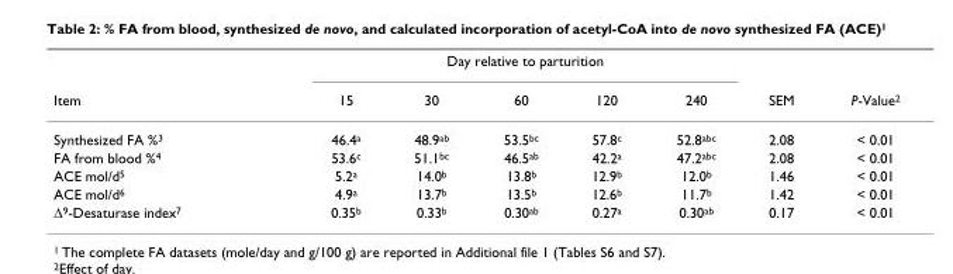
<table><thead><tr><td rowspan="2">Item</td><td colspan="5">Day relative to parturition</td><td rowspan="2">SEM</td><td rowspan="2">P-Value<sup>2</sup></td></tr><tr><td>15</td><td>30</td><td>60</td><td>120</td><td>240</td></tr></thead><tbody><tr><td>Synthesized FA %<sup>3</sup></td><td>46.4<sup>a</sup></td><td>48.9<sup>ab</sup></td><td>53.5<sup>bc</sup></td><td>57.8<sup>c</sup></td><td>52.8<sup>abc</sup></td><td>2.08</td><td>&lt; 0.01</td></tr><tr><td>FA from blood %<sup>4</sup></td><td>53.6<sup>c</sup></td><td>51.1<sup>bc</sup></td><td>46.5<sup>ab</sup></td><td>42.2<sup>a</sup></td><td>47.2<sup>abc</sup></td><td>2.08</td><td>&lt; 0.01</td></tr><tr><td>ACE mol/d<sup>5</sup></td><td>5.2<sup>a</sup></td><td>14.0<sup>b</sup></td><td>13.8<sup>b</sup></td><td>12.9<sup>b</sup></td><td>12.0<sup>b</sup></td><td>1.46</td><td>&lt; 0.01</td></tr><tr><td>ACE mol/d<sup>6</sup></td><td>4.9<sup>a</sup></td><td>13.7<sup>b</sup></td><td>13.5<sup>b</sup></td><td>12.6<sup>b</sup></td><td>11.7<sup>b</sup></td><td>1.42</td><td>&lt; 0.01</td></tr><tr><td>Δ<sup>9</sup>-Desaturase index<sup>7</sup></td><td>0.35<sup>b</sup></td><td>0.33<sup>b</sup></td><td>0.30<sup>ab</sup></td><td>0.27<sup>a</sup></td><td>0.30<sup>ab</sup></td><td>0.17</td><td>&lt; 0.01</td></tr></tbody></table>